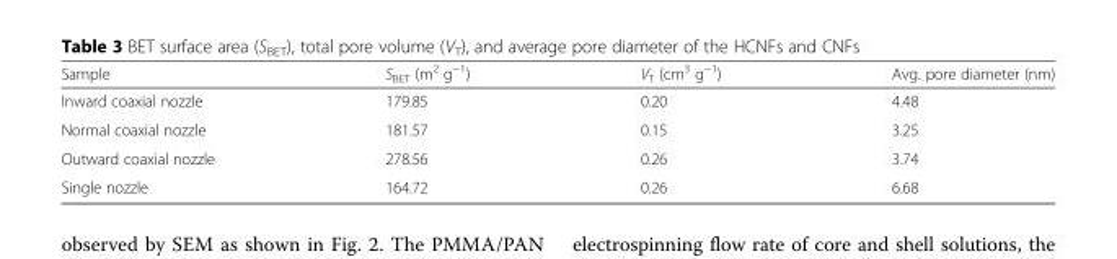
<table><thead><tr><td>Sample</td><td>S<sub>BET</sub> (m<sup>2</sup> g<sup>−1</sup>)</td><td>V<sub>T</sub> (cm<sup>3</sup> g<sup>−1</sup>)</td><td>Avg. pore diameter (nm)</td></tr></thead><tbody><tr><td>Inward coaxial nozzle</td><td>179.85</td><td>0.20</td><td>4.48</td></tr><tr><td>Normal coaxial nozzle</td><td>181.57</td><td>0.15</td><td>3.25</td></tr><tr><td>Outward coaxial nozzle</td><td>278.56</td><td>0.26</td><td>3.74</td></tr><tr><td>Single nozzle</td><td>164.72</td><td>0.26</td><td>6.68</td></tr></tbody></table>